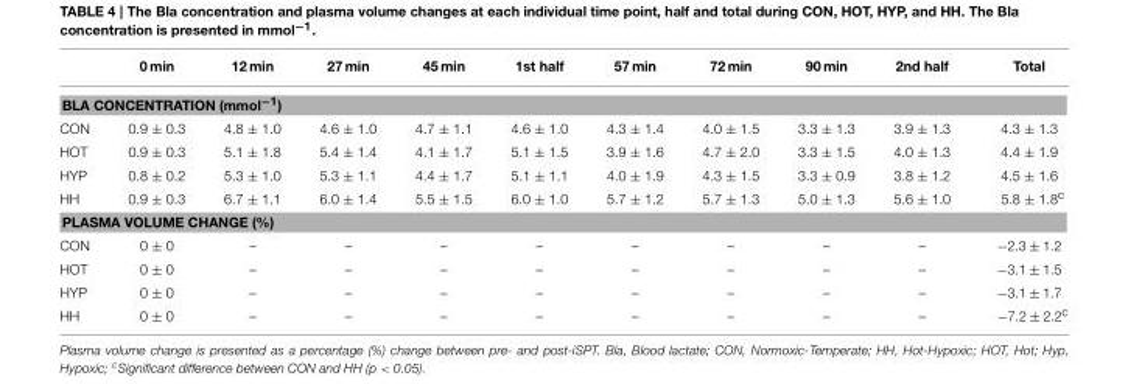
<table><thead><tr><td></td><td>0 min</td><td>12 min</td><td>27 min</td><td>45 min</td><td>1st half</td><td>57 min</td><td>72 min</td><td>90 min</td><td>2nd half</td><td>Total</td></tr></thead><tbody><tr><td colspan="11">BLA CONCENTRATION (mmol<sup>−1</sup>)</td></tr><tr><td>CON</td><td>0.9 ± 0.3</td><td>4.8 ± 1.0</td><td>4.6 ± 1.0</td><td>4.7 ± 1.1</td><td>4.6 ± 1.0</td><td>4.3 ± 1.4</td><td>4.0 ± 1.5</td><td>3.3 ± 1.3</td><td>3.9 ± 1.3</td><td>4.3 ± 1.3</td></tr><tr><td>HOT</td><td>0.9 ± 0.3</td><td>5.1 ± 1.8</td><td>5.4 ± 1.4</td><td>4.1 ± 1.7</td><td>5.1 ± 1.5</td><td>3.9 ± 1.6</td><td>4.7 ± 2.0</td><td>3.3 ± 1.5</td><td>4.0 ± 1.3</td><td>4.4 ± 1.9</td></tr><tr><td>HYP</td><td>0.8 ± 0.2</td><td>5.3 ± 1.0</td><td>5.3 ± 1.1</td><td>4.4 ± 1.7</td><td>5.1 ± 1.1</td><td>4.0 ± 1.9</td><td>4.3 ± 1.5</td><td>3.3 ± 0.9</td><td>3.8 ± 1.2</td><td>4.5 ± 1.6</td></tr><tr><td>HH</td><td>0.9 ± 0.3</td><td>6.7 ± 1.1</td><td>6.0 ± 1.4</td><td>5.5 ± 1.5</td><td>6.0 ± 1.0</td><td>5.7 ± 1.2</td><td>5.7 ± 1.3</td><td>5.0 ± 1.3</td><td>5.6 ± 1.0</td><td>5.8 ± 1.8<sup>c</sup></td></tr><tr><td colspan="11">PLASMA VOLUME CHANGE (%)</td></tr><tr><td>CON</td><td>0 ± 0</td><td>–</td><td>–</td><td>–</td><td>–</td><td>–</td><td>–</td><td>–</td><td>–</td><td>−2.3 ± 1.2</td></tr><tr><td>HOT</td><td>0 ± 0</td><td>–</td><td>–</td><td>–</td><td>–</td><td>–</td><td>–</td><td>–</td><td>–</td><td>−3.1 ± 1.5</td></tr><tr><td>HYP</td><td>0 ± 0</td><td>–</td><td>–</td><td>–</td><td>–</td><td>–</td><td>–</td><td>–</td><td>–</td><td>−3.1 ± 1.7</td></tr><tr><td>HH</td><td>0 ± 0</td><td>–</td><td>–</td><td>–</td><td>–</td><td>–</td><td>–</td><td>–</td><td>–</td><td>−7.2 ± 2.2<sup>c</sup></td></tr></tbody></table>